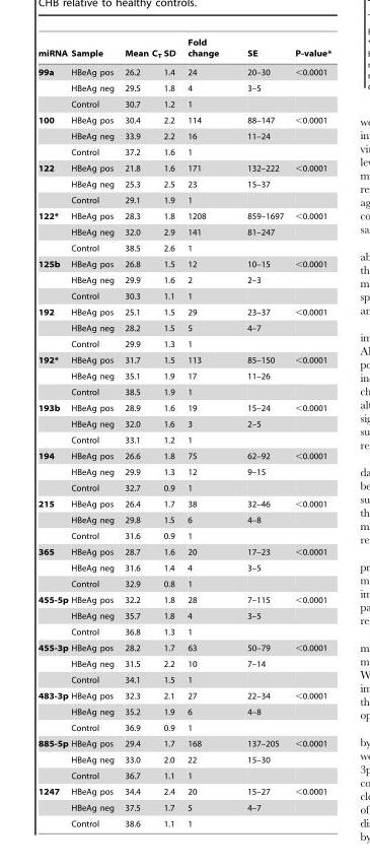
<table><thead><tr><td>miRNA</td><td>Sample</td><td>Mean C<sub>T</sub></td><td>SD</td><td>Fold change</td><td>SE</td><td>P-value*</td></tr></thead><tbody><tr><td rowspan="3">99a</td><td>HBeAg pos</td><td>26.2</td><td>1.4</td><td>24</td><td>20–30</td><td>&lt;0.0001</td></tr><tr><td>HBeAg neg</td><td>29.5</td><td>1.8</td><td>4</td><td>3–5</td><td></td></tr><tr><td>Control</td><td>30.7</td><td>1.2</td><td>1</td><td></td><td></td></tr><tr><td rowspan="3">100</td><td>HBeAg pos</td><td>30.4</td><td>2.2</td><td>114</td><td>88–147</td><td>&lt;0.0001</td></tr><tr><td>HBeAg neg</td><td>33.9</td><td>2.2</td><td>16</td><td>11–24</td><td></td></tr><tr><td>Control</td><td>37.2</td><td>1.6</td><td>1</td><td></td><td></td></tr><tr><td rowspan="3">122</td><td>HBeAg pos</td><td>21.8</td><td>1.6</td><td>171</td><td>132–222</td><td>&lt;0.0001</td></tr><tr><td>HBeAg neg</td><td>25.3</td><td>2.5</td><td>23</td><td>15–37</td><td></td></tr><tr><td>Control</td><td>29.1</td><td>1.9</td><td>1</td><td></td><td></td></tr><tr><td rowspan="3">122*</td><td>HBeAg pos</td><td>28.3</td><td>1.8</td><td>1208</td><td>859–1697</td><td>&lt;0.0001</td></tr><tr><td>HBeAg neg</td><td>32.0</td><td>2.9</td><td>141</td><td>81–247</td><td></td></tr><tr><td>Control</td><td>38.5</td><td>2.6</td><td>1</td><td></td><td></td></tr><tr><td rowspan="3">125b</td><td>HBeAg pos</td><td>26.8</td><td>1.5</td><td>12</td><td>10–15</td><td>&lt;0.0001</td></tr><tr><td>HBeAg neg</td><td>29.9</td><td>1.6</td><td>2</td><td>2–3</td><td></td></tr><tr><td>Control</td><td>30.3</td><td>1.1</td><td>1</td><td></td><td></td></tr><tr><td rowspan="3">192</td><td>HBeAg pos</td><td>25.1</td><td>1.5</td><td>29</td><td>23–37</td><td>&lt;0.0001</td></tr><tr><td>HBeAg neg</td><td>28.2</td><td>1.5</td><td>5</td><td>4–7</td><td></td></tr><tr><td>Control</td><td>29.9</td><td>1.3</td><td>1</td><td></td><td></td></tr><tr><td rowspan="3">192*</td><td>HBeAg pos</td><td>31.7</td><td>1.5</td><td>113</td><td>85–150</td><td>&lt;0.0001</td></tr><tr><td>HBeAg neg</td><td>35.1</td><td>1.9</td><td>17</td><td>11–26</td><td></td></tr><tr><td>Control</td><td>38.5</td><td>1.9</td><td>1</td><td></td><td></td></tr><tr><td rowspan="3">193b</td><td>HBeAg pos</td><td>28.9</td><td>1.6</td><td>19</td><td>15–24</td><td>&lt;0.0001</td></tr><tr><td>HBeAg neg</td><td>32.0</td><td>1.6</td><td>3</td><td>2–5</td><td></td></tr><tr><td>Control</td><td>33.1</td><td>1.2</td><td>1</td><td></td><td></td></tr><tr><td rowspan="3">194</td><td>HBeAg pos</td><td>26.6</td><td>1.8</td><td>75</td><td>62–92</td><td>&lt;0.0001</td></tr><tr><td>HBeAg neg</td><td>29.9</td><td>1.3</td><td>12</td><td>9–15</td><td></td></tr><tr><td>Control</td><td>32.7</td><td>0.9</td><td>1</td><td></td><td></td></tr><tr><td rowspan="3">215</td><td>HBeAg pos</td><td>26.4</td><td>1.7</td><td>38</td><td>32–46</td><td>&lt;0.0001</td></tr><tr><td>HBeAg neg</td><td>29.8</td><td>1.5</td><td>6</td><td>4–8</td><td></td></tr><tr><td>Control</td><td>31.6</td><td>0.9</td><td>1</td><td></td><td></td></tr><tr><td rowspan="3">365</td><td>HBeAg pos</td><td>28.7</td><td>1.6</td><td>20</td><td>17–23</td><td>&lt;0.0001</td></tr><tr><td>HBeAg neg</td><td>31.6</td><td>1.4</td><td>4</td><td>3–5</td><td></td></tr><tr><td>Control</td><td>32.9</td><td>0.8</td><td>1</td><td></td><td></td></tr><tr><td rowspan="3">455-5p</td><td>HBeAg pos</td><td>32.2</td><td>1.8</td><td>28</td><td>7–115</td><td>&lt;0.0001</td></tr><tr><td>HBeAg neg</td><td>35.7</td><td>1.8</td><td>4</td><td>3–5</td><td></td></tr><tr><td>Control</td><td>36.8</td><td>1.3</td><td>1</td><td></td><td></td></tr><tr><td rowspan="3">455-3p</td><td>HBeAg pos</td><td>28.2</td><td>1.7</td><td>63</td><td>50–79</td><td>&lt;0.0001</td></tr><tr><td>HBeAg neg</td><td>31.5</td><td>2.2</td><td>10</td><td>7–14</td><td></td></tr><tr><td>Control</td><td>34.1</td><td>1.5</td><td>1</td><td></td><td></td></tr><tr><td rowspan="3">483-3p</td><td>HBeAg pos</td><td>32.3</td><td>2.1</td><td>27</td><td>22–34</td><td>&lt;0.0001</td></tr><tr><td>HBeAg neg</td><td>35.2</td><td>1.9</td><td>6</td><td>4–8</td><td></td></tr><tr><td>Control</td><td>36.9</td><td>0.9</td><td>1</td><td></td><td></td></tr><tr><td rowspan="3">885-5p</td><td>HBeAg pos</td><td>29.4</td><td>1.7</td><td>168</td><td>137–205</td><td>&lt;0.0001</td></tr><tr><td>HBeAg neg</td><td>33.0</td><td>2.0</td><td>22</td><td>15–30</td><td></td></tr><tr><td>Control</td><td>36.7</td><td>1.1</td><td>1</td><td></td><td></td></tr><tr><td rowspan="3">1247</td><td>HBeAg pos</td><td>34.4</td><td>2.4</td><td>20</td><td>15–27</td><td>&lt;0.0001</td></tr><tr><td>HBeAg neg</td><td>37.5</td><td>1.7</td><td>5</td><td>4–7</td><td></td></tr><tr><td>Control</td><td>38.6</td><td>1.1</td><td>1</td><td></td><td></td></tr></tbody></table>